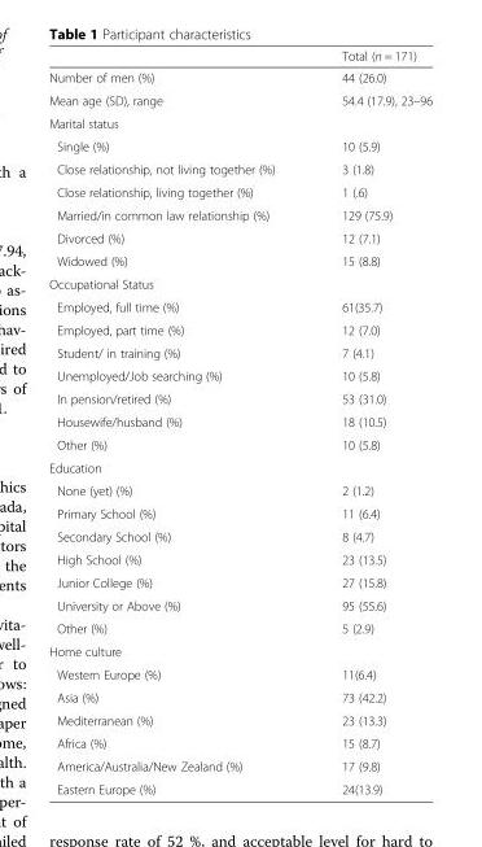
<table><thead><tr><td></td><td>Total (n = 171)</td></tr></thead><tbody><tr><td>Number of men (%)</td><td>44 (26.0)</td></tr><tr><td>Mean age (SD), range</td><td>54.4 (17.9), 23–96</td></tr><tr><td colspan="2">Marital status</td></tr><tr><td>Single (%)</td><td>10 (5.9)</td></tr><tr><td>Close relationship, not living together (%)</td><td>3 (1.8)</td></tr><tr><td>Close relationship, living together (%)</td><td>1 (.6)</td></tr><tr><td>Married/in common law relationship (%)</td><td>129 (75.9)</td></tr><tr><td>Divorced (%)</td><td>12 (7.1)</td></tr><tr><td>Widowed (%)</td><td>15 (8.8)</td></tr><tr><td colspan="2">Occupational Status</td></tr><tr><td>Employed, full time (%)</td><td>61(35.7)</td></tr><tr><td>Employed, part time (%)</td><td>12 (7.0)</td></tr><tr><td>Student/ in training (%)</td><td>7 (4.1)</td></tr><tr><td>Unemployed/Job searching (%)</td><td>10 (5.8)</td></tr><tr><td>In pension/retired (%)</td><td>53 (31.0)</td></tr><tr><td>Housewife/husband (%)</td><td>18 (10.5)</td></tr><tr><td>Other (%)</td><td>10 (5.8)</td></tr><tr><td colspan="2">Education</td></tr><tr><td>None (yet) (%)</td><td>2 (1.2)</td></tr><tr><td>Primary School (%)</td><td>11 (6.4)</td></tr><tr><td>Secondary School (%)</td><td>8 (4.7)</td></tr><tr><td>High School (%)</td><td>23 (13.5)</td></tr><tr><td>Junior College (%)</td><td>27 (15.8)</td></tr><tr><td>University or Above (%)</td><td>95 (55.6)</td></tr><tr><td>Other (%)</td><td>5 (2.9)</td></tr><tr><td colspan="2">Home culture</td></tr><tr><td>Western Europe (%)</td><td>11(6.4)</td></tr><tr><td>Asia (%)</td><td>73 (42.2)</td></tr><tr><td>Mediterranean (%)</td><td>23 (13.3)</td></tr><tr><td>Africa (%)</td><td>15 (8.7)</td></tr><tr><td>America/Australia/New Zealand (%)</td><td>17 (9.8)</td></tr><tr><td>Eastern Europe (%)</td><td>24(13.9)</td></tr></tbody></table>